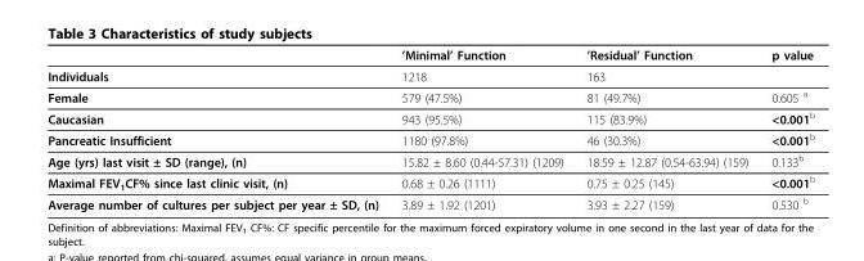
<table><thead><tr><td></td><td>’Minimal’ Function</td><td>’Residual’ Function</td><td>p value</td></tr></thead><tbody><tr><td>Individuals</td><td>1218</td><td>163</td><td></td></tr><tr><td>Female</td><td>579 (47.5%)</td><td>81 (49.7%)</td><td>0.605 <sup>a</sup></td></tr><tr><td>Caucasian</td><td>943 (95.5%)</td><td>115 (83.9%)</td><td>&lt;0.001<sup>b</sup></td></tr><tr><td>Pancreatic Insufficient</td><td>1180 (97.8%)</td><td>46 (30.3%)</td><td>&lt;0.001<sup>b</sup></td></tr><tr><td>Age (yrs) last visit ± SD (range), (n)</td><td>15.82 ± 8.60 (0.44-57.31) (1209)</td><td>18.59 ± 12.87 (0.54-63.94) (159)</td><td>0.133<sup>b</sup></td></tr><tr><td>Maximal FEV<sub>1</sub>CF% since last clinic visit, (n)</td><td>0.68 ± 0.26 (1111)</td><td>0.75 ± 0.25 (145)</td><td>&lt;0.001<sup>b</sup></td></tr><tr><td>Average number of cultures per subject per year ± SD, (n)</td><td>3.89 ± 1.92 (1201)</td><td>3.93 ± 2.27 (159)</td><td>0.530 <sup>b</sup></td></tr></tbody></table>